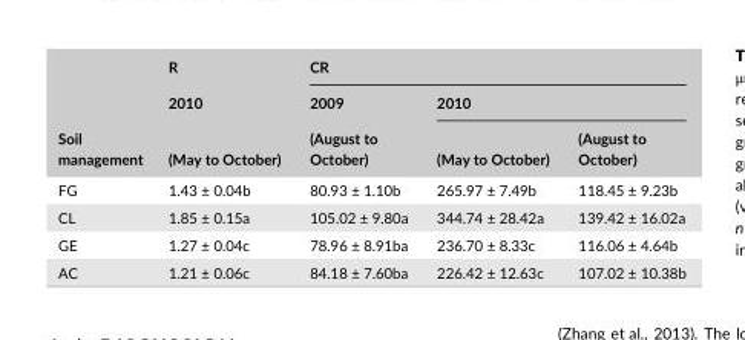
<table><thead><tr><td rowspan="3">Soil management</td><td rowspan="3">R 2010 (May to October)</td><td colspan="3">CR</td></tr><tr><td rowspan="2">2009 (August to October)</td><td colspan="2">2010</td></tr><tr><td>(May to October)</td><td>(August to October)</td></tr></thead><tbody><tr><td>FG</td><td>1.43 ± 0.04b</td><td>80.93 ± 1.10b</td><td>265.97 ± 7.49b</td><td>118.45 ± 9.23b</td></tr><tr><td>CL</td><td>1.85 ± 0.15a</td><td>105.02 ± 9.80a</td><td>344.74 ± 28.42a</td><td>139.42 ± 16.02a</td></tr><tr><td>GE</td><td>1.27 ± 0.04c</td><td>78.96 ± 8.91ba</td><td>236.70 ± 8.33c</td><td>116.06 ± 4.64b</td></tr><tr><td>AC</td><td>1.21 ± 0.06c</td><td>84.18 ± 7.60ba</td><td>226.42 ± 12.63c</td><td>107.02 ± 10.38b</td></tr></tbody></table>